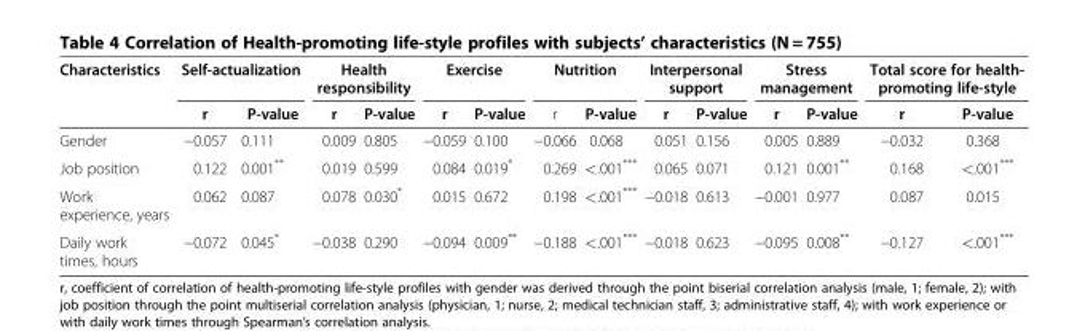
<table><thead><tr><td rowspan="2">Characteristics</td><td colspan="2">Self-actualization</td><td colspan="2">Health responsibility</td><td colspan="2">Exercise</td><td colspan="2">Nutrition</td><td colspan="2">Interpersonal support</td><td colspan="2">Stress management</td><td colspan="2">Total score for health- promoting life-style</td></tr><tr><td>r</td><td>P-value</td><td>r</td><td>P-value</td><td>r</td><td>P-value</td><td>r</td><td>P-value</td><td>r</td><td>P-value</td><td>r</td><td>P-value</td><td>r</td><td>P-value</td></tr></thead><tbody><tr><td>Gender</td><td>−0.057</td><td>0.111</td><td>0.009</td><td>0.805</td><td>−0.059</td><td>0.100</td><td>−0.066</td><td>0.068</td><td>0.051</td><td>0.156</td><td>0.005</td><td>0.889</td><td>−0.032</td><td>0.368</td></tr><tr><td>Job position</td><td>0.122</td><td>0.001**</td><td>0.019</td><td>0.599</td><td>0.084</td><td>0.019*</td><td>0.269</td><td>&lt;.001***</td><td>0.065</td><td>0.071</td><td>0.121</td><td>0.001**</td><td>0.168</td><td>&lt;.001***</td></tr><tr><td>Work experience, years</td><td>0.062</td><td>0.087</td><td>0.078</td><td>0.030*</td><td>0.015</td><td>0.672</td><td>0.198</td><td>&lt;.001***</td><td>−0.018</td><td>0.613</td><td>−0.001</td><td>0.977</td><td>0.087</td><td>0.015</td></tr><tr><td>Daily work times, hours</td><td>−0.072</td><td>0.045*</td><td>−0.038</td><td>0.290</td><td>−0.094</td><td>0.009**</td><td>−0.188</td><td>&lt;.001***</td><td>−0.018</td><td>0.623</td><td>−0.095</td><td>0.008**</td><td>−0.127</td><td>&lt;.001***</td></tr></tbody></table>